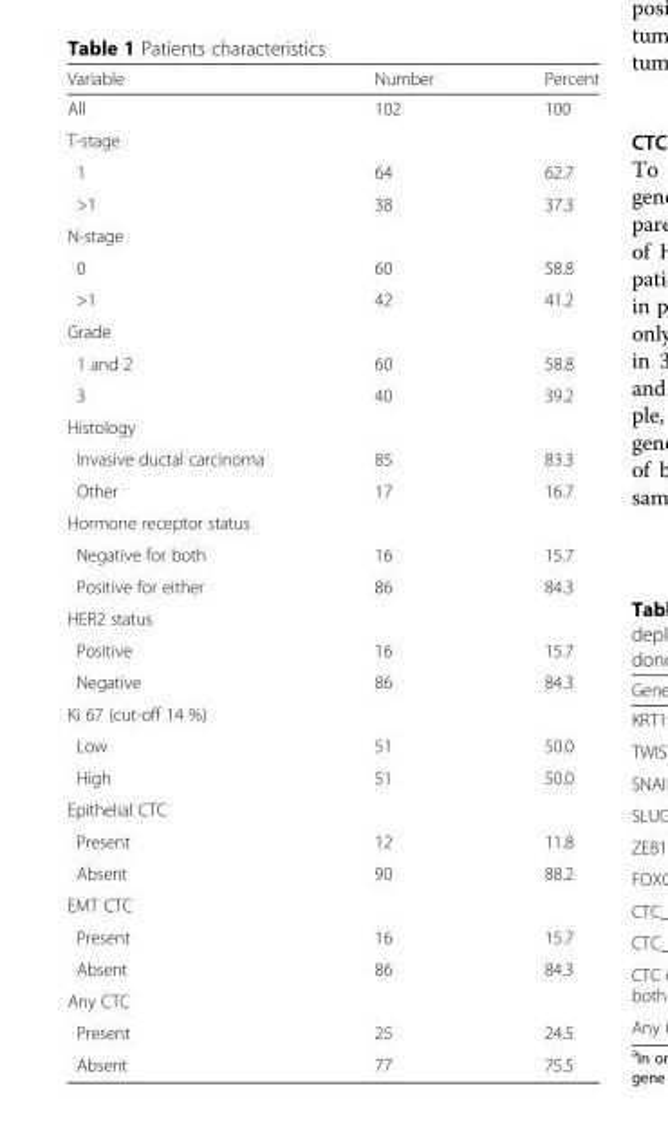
<table><thead><tr><td>Variable</td><td>Number</td><td>Percent</td></tr></thead><tbody><tr><td>All</td><td>102</td><td>100</td></tr><tr><td colspan="3">T-stage</td></tr><tr><td>1</td><td>64</td><td>62.7</td></tr><tr><td>&gt;1</td><td>38</td><td>37.3</td></tr><tr><td colspan="3">N-stage</td></tr><tr><td>0</td><td>60</td><td>58.8</td></tr><tr><td>&gt;1</td><td>42</td><td>41.2</td></tr><tr><td colspan="3">Grade</td></tr><tr><td>1 and 2</td><td>60</td><td>58.8</td></tr><tr><td>3</td><td>40</td><td>39.2</td></tr><tr><td colspan="3">Histology</td></tr><tr><td>Invasive ductal carcinoma</td><td>85</td><td>83.3</td></tr><tr><td>Other</td><td>17</td><td>16.7</td></tr><tr><td colspan="3">Hormone receptor status</td></tr><tr><td>Negative for both</td><td>16</td><td>15.7</td></tr><tr><td>Positive for either</td><td>86</td><td>84.3</td></tr><tr><td colspan="3">HER2 status</td></tr><tr><td>Positive</td><td>16</td><td>15.7</td></tr><tr><td>Negative</td><td>86</td><td>84.3</td></tr><tr><td colspan="3">Ki 67 (cut-off 14 %)</td></tr><tr><td>Low</td><td>51</td><td>50.0</td></tr><tr><td>High</td><td>51</td><td>50.0</td></tr><tr><td colspan="3">Epithelial CTC</td></tr><tr><td>Present</td><td>12</td><td>11.8</td></tr><tr><td>Absent</td><td>90</td><td>88.2</td></tr><tr><td colspan="3">EMT CTC</td></tr><tr><td>Present</td><td>16</td><td>15.7</td></tr><tr><td>Absent</td><td>86</td><td>84.3</td></tr><tr><td colspan="3">Any CTC</td></tr><tr><td>Present</td><td>25</td><td>24.5</td></tr><tr><td>Absent</td><td>77</td><td>75.5</td></tr></tbody></table>